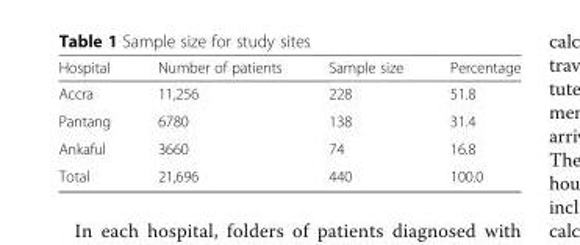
<table><thead><tr><td>Hospital</td><td>Number of patients</td><td>Sample size</td><td>Percentage</td></tr></thead><tbody><tr><td>Accra</td><td>11,256</td><td>228</td><td>51.8</td></tr><tr><td>Pantang</td><td>6780</td><td>138</td><td>31.4</td></tr><tr><td>Ankaful</td><td>3660</td><td>74</td><td>16.8</td></tr><tr><td>Total</td><td>21,696</td><td>440</td><td>100.0</td></tr></tbody></table>